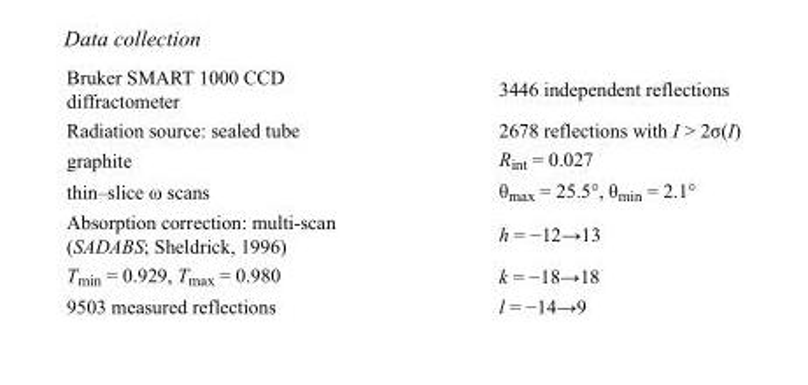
<table><tbody><tr><td>Bruker SMART 1000 CCD diffractometer</td><td>3446 independent reflections</td></tr><tr><td>Radiation source: sealed tube</td><td>2678 reflections with I &gt; 2σ(I)</td></tr><tr><td>graphite</td><td>R<sub>int</sub> = 0.027</td></tr><tr><td>thin–slice ω scans</td><td>θ<sub>max</sub> = 25.5°, θ<sub>min</sub> = 2.1°</td></tr><tr><td>Absorption correction: multi-scan (SADABS; Sheldrick, 1996)</td><td>h = −12→13</td></tr><tr><td>T<sub>min</sub> = 0.929, T<sub>max</sub> = 0.980</td><td>k = −18→18</td></tr><tr><td>9503 measured reflections</td><td>l = −14→9</td></tr></tbody></table>